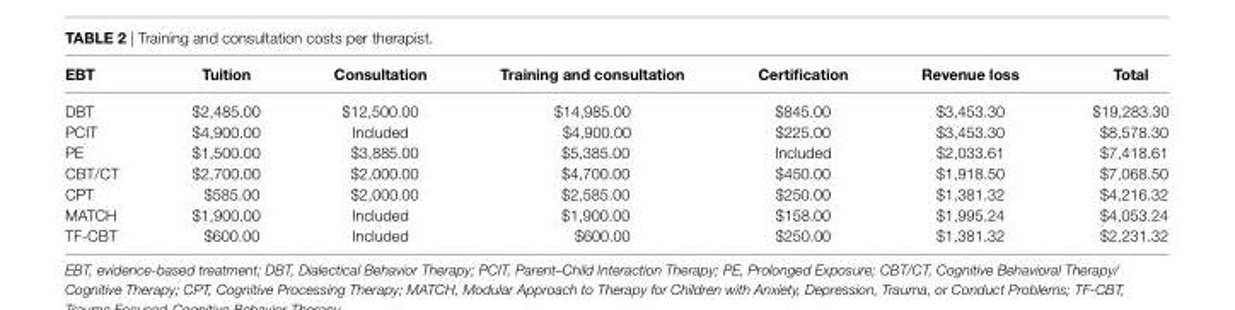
<table><thead><tr><td>eBT</td><td>Tuition</td><td>consultation</td><td>Training and consultation</td><td>certification</td><td>revenue loss</td><td>Total</td></tr></thead><tbody><tr><td>DBT</td><td>$2,485.00</td><td>$12,500.00</td><td>$14,985.00</td><td>$845.00</td><td>$3,453.30</td><td>$19,283.30</td></tr><tr><td>PCIT</td><td>$4,900.00</td><td>Included</td><td>$4,900.00</td><td>$225.00</td><td>$3,453.30</td><td>$8,578.30</td></tr><tr><td>PE</td><td>$1,500.00</td><td>$3,885.00</td><td>$5,385.00</td><td>Included</td><td>$2,033.61</td><td>$7,418.61</td></tr><tr><td>CBT/CT</td><td>$2,700.00</td><td>$2,000.00</td><td>$4,700.00</td><td>$450.00</td><td>$1,918.50</td><td>$7,068.50</td></tr><tr><td>CPT</td><td>$585.00</td><td>$2,000.00</td><td>$2,585.00</td><td>$250.00</td><td>$1,381.32</td><td>$4,216.32</td></tr><tr><td>MATCH</td><td>$1,900.00</td><td>Included</td><td>$1,900.00</td><td>$158.00</td><td>$1,995.24</td><td>$4,053.24</td></tr><tr><td>TF-CBT</td><td>$600.00</td><td>Included</td><td>$600.00</td><td>$250.00</td><td>$1,381.32</td><td>$2,231.32</td></tr></tbody></table>